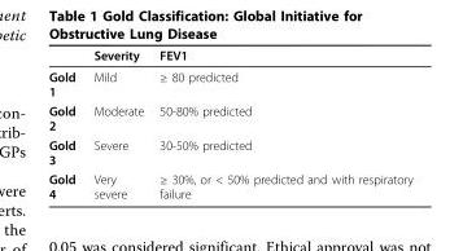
<table><thead><tr><td></td><td>Severity</td><td>FEV1</td></tr></thead><tbody><tr><td>Gold 1</td><td>Mild</td><td>≥ 80 predicted</td></tr><tr><td>Gold 2</td><td>Moderate</td><td>50-80% predicted</td></tr><tr><td>Gold 3</td><td>Severe</td><td>30-50% predicted</td></tr><tr><td>Gold 4</td><td>Very severe</td><td>≥ 30%, or &lt; 50% predicted and with respiratory failure</td></tr></tbody></table>